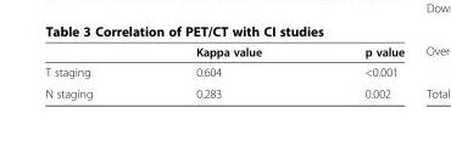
<table><thead><tr><td></td><td>Kappa value</td><td>p value</td></tr></thead><tbody><tr><td>T staging</td><td>0.604</td><td>&lt;0.001</td></tr><tr><td>N staging</td><td>0.283</td><td>0.002</td></tr></tbody></table>